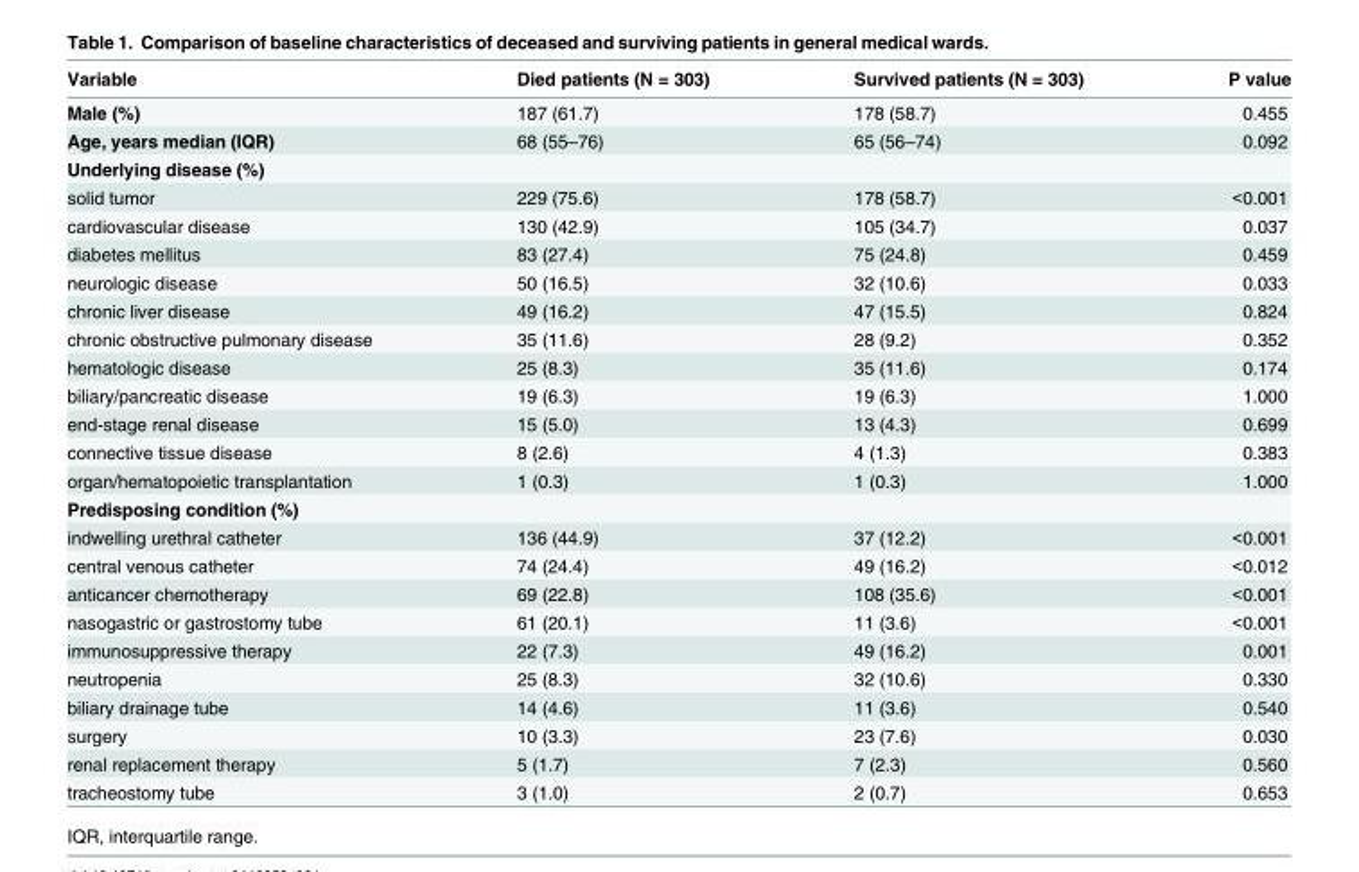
<table><thead><tr><td>Variable</td><td>Died patients (N = 303)</td><td>Survived patients (N = 303)</td><td>P value</td></tr></thead><tbody><tr><td>Male (%)</td><td>187 (61.7)</td><td>178 (58.7)</td><td>0.455</td></tr><tr><td>Age, years median (IQR)</td><td>68 (55–76)</td><td>65 (56–74)</td><td>0.092</td></tr><tr><td colspan="4">Underlying disease (%)</td></tr><tr><td>solid tumor</td><td>229 (75.6)</td><td>178 (58.7)</td><td>&lt;0.001</td></tr><tr><td>cardiovascular disease</td><td>130 (42.9)</td><td>105 (34.7)</td><td>0.037</td></tr><tr><td>diabetes mellitus</td><td>83 (27.4)</td><td>75 (24.8)</td><td>0.459</td></tr><tr><td>neurologic disease</td><td>50 (16.5)</td><td>32 (10.6)</td><td>0.033</td></tr><tr><td>chronic liver disease</td><td>49 (16.2)</td><td>47 (15.5)</td><td>0.824</td></tr><tr><td>chronic obstructive pulmonary disease</td><td>35 (11.6)</td><td>28 (9.2)</td><td>0.352</td></tr><tr><td>hematologic disease</td><td>25 (8.3)</td><td>35 (11.6)</td><td>0.174</td></tr><tr><td>biliary/pancreatic disease</td><td>19 (6.3)</td><td>19 (6.3)</td><td>1.000</td></tr><tr><td>end-stage renal disease</td><td>15 (5.0)</td><td>13 (4.3)</td><td>0.699</td></tr><tr><td>connective tissue disease</td><td>8 (2.6)</td><td>4 (1.3)</td><td>0.383</td></tr><tr><td>organ/hematopoietic transplantation</td><td>1 (0.3)</td><td>1 (0.3)</td><td>1.000</td></tr><tr><td colspan="4">Predisposing condition (%)</td></tr><tr><td>indwelling urethral catheter</td><td>136 (44.9)</td><td>37 (12.2)</td><td>&lt;0.001</td></tr><tr><td>central venous catheter</td><td>74 (24.4)</td><td>49 (16.2)</td><td>&lt;0.012</td></tr><tr><td>anticancer chemotherapy</td><td>69 (22.8)</td><td>108 (35.6)</td><td>&lt;0.001</td></tr><tr><td>nasogastric or gastrostomy tube</td><td>61 (20.1)</td><td>11 (3.6)</td><td>&lt;0.001</td></tr><tr><td>immunosuppressive therapy</td><td>22 (7.3)</td><td>49 (16.2)</td><td>0.001</td></tr><tr><td>neutropenia</td><td>25 (8.3)</td><td>32 (10.6)</td><td>0.330</td></tr><tr><td>biliary drainage tube</td><td>14 (4.6)</td><td>11 (3.6)</td><td>0.540</td></tr><tr><td>surgery</td><td>10 (3.3)</td><td>23 (7.6)</td><td>0.030</td></tr><tr><td>renal replacement therapy</td><td>5 (1.7)</td><td>7 (2.3)</td><td>0.560</td></tr><tr><td>tracheostomy tube</td><td>3 (1.0)</td><td>2 (0.7)</td><td>0.653</td></tr></tbody></table>